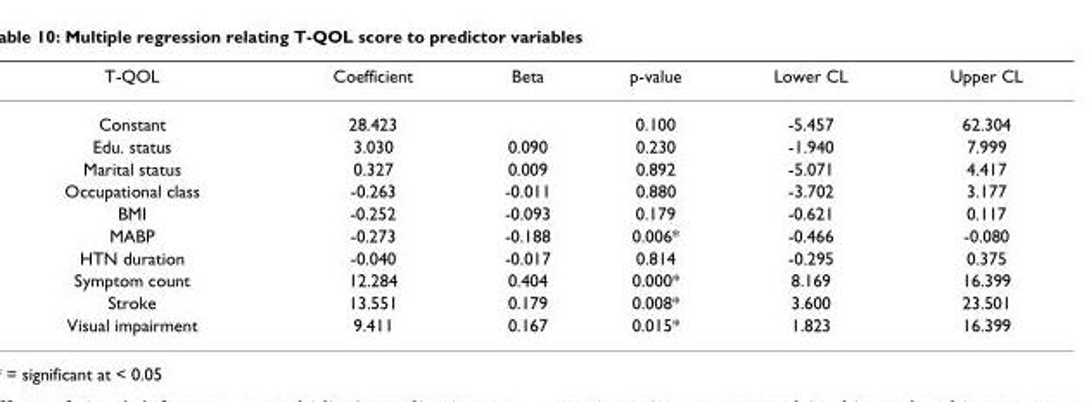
<table><thead><tr><td>T-QOL</td><td>Coefficient</td><td>Beta</td><td>p-value</td><td>Lower CL</td><td>Upper CL</td></tr></thead><tbody><tr><td>Constant</td><td>28.423</td><td></td><td>0.100</td><td>-5.457</td><td>62.304</td></tr><tr><td>Edu. status</td><td>3.030</td><td>0.090</td><td>0.230</td><td>-1.940</td><td>7.999</td></tr><tr><td>Marital status</td><td>0.327</td><td>0.009</td><td>0.892</td><td>-5.071</td><td>4.417</td></tr><tr><td>Occupational class</td><td>-0.263</td><td>-0.011</td><td>0.880</td><td>-3.702</td><td>3.177</td></tr><tr><td>BMI</td><td>-0.252</td><td>-0.093</td><td>0.179</td><td>-0.621</td><td>0.117</td></tr><tr><td>MABP</td><td>-0.273</td><td>-0.188</td><td>0.006*</td><td>-0.466</td><td>-0.080</td></tr><tr><td>HTN duration</td><td>-0.040</td><td>-0.017</td><td>0.814</td><td>-0.295</td><td>0.375</td></tr><tr><td>Symptom count</td><td>12.284</td><td>0.404</td><td>0.000*</td><td>8.169</td><td>16.399</td></tr><tr><td>Stroke</td><td>13.551</td><td>0.179</td><td>0.008*</td><td>3.600</td><td>23.501</td></tr><tr><td>Visual impairment</td><td>9.411</td><td>0.167</td><td>0.015*</td><td>1.823</td><td>16.399</td></tr></tbody></table>